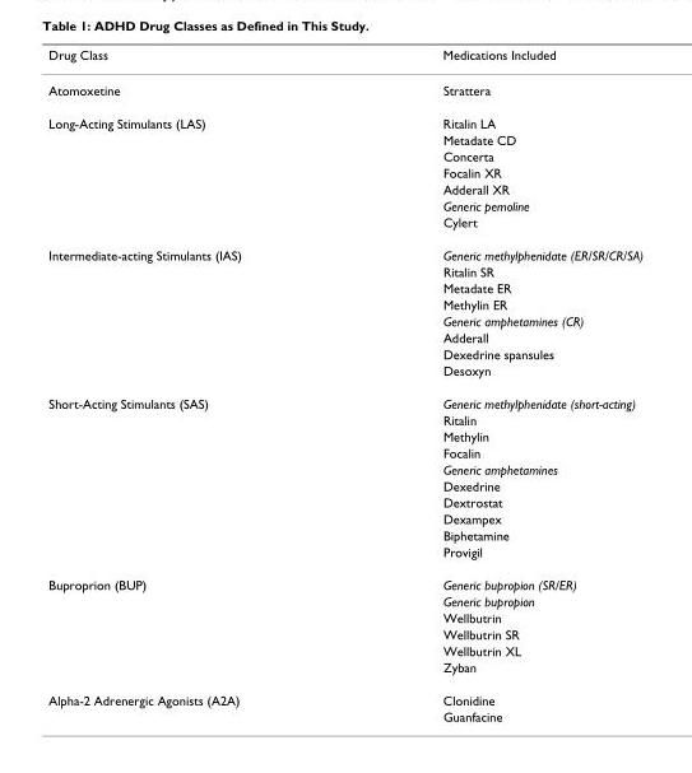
<table><thead><tr><td>Drug Class</td><td>Medications Included</td></tr></thead><tbody><tr><td>Atomoxetine</td><td>Strattera</td></tr><tr><td rowspan="7">Long-Acting Stimulants (LAS)</td><td>Ritalin LA</td></tr><tr><td>Metadate CD</td></tr><tr><td>Concerta</td></tr><tr><td>Focalin XR</td></tr><tr><td>Adderall XR</td></tr><tr><td>Generic pemoline</td></tr><tr><td>Cylert</td></tr><tr><td rowspan="8">Intermediate-acting Stimulants (IAS)</td><td>Generic methylphenidate (ER/SR/CR/SA)</td></tr><tr><td>Ritalin SR</td></tr><tr><td>Metadate ER</td></tr><tr><td>Methylin ER</td></tr><tr><td>Generic amphetamines (CR)</td></tr><tr><td>Adderall</td></tr><tr><td>Dexedrine spansules</td></tr><tr><td>Desoxyn</td></tr><tr><td rowspan="10">Short-Acting Stimulants (SAS)</td><td>Generic methylphenidate (short-acting)</td></tr><tr><td>Ritalin</td></tr><tr><td>Methylin</td></tr><tr><td>Focalin</td></tr><tr><td>Generic amphetamines</td></tr><tr><td>Dexedrine</td></tr><tr><td>Dextrostat</td></tr><tr><td>Dexampex</td></tr><tr><td>Biphetamine</td></tr><tr><td>Provigil</td></tr><tr><td rowspan="6">Buproprion (BUP)</td><td>Generic bupropion (SR/ER)</td></tr><tr><td>Generic bupropion</td></tr><tr><td>Wellbutrin</td></tr><tr><td>Wellbutrin SR</td></tr><tr><td>Wellbutrin XL</td></tr><tr><td>Zyban</td></tr><tr><td rowspan="2">Alpha-2 Adrenergic Agonists (A2A)</td><td>Clonidine</td></tr><tr><td>Guanfacine</td></tr></tbody></table>